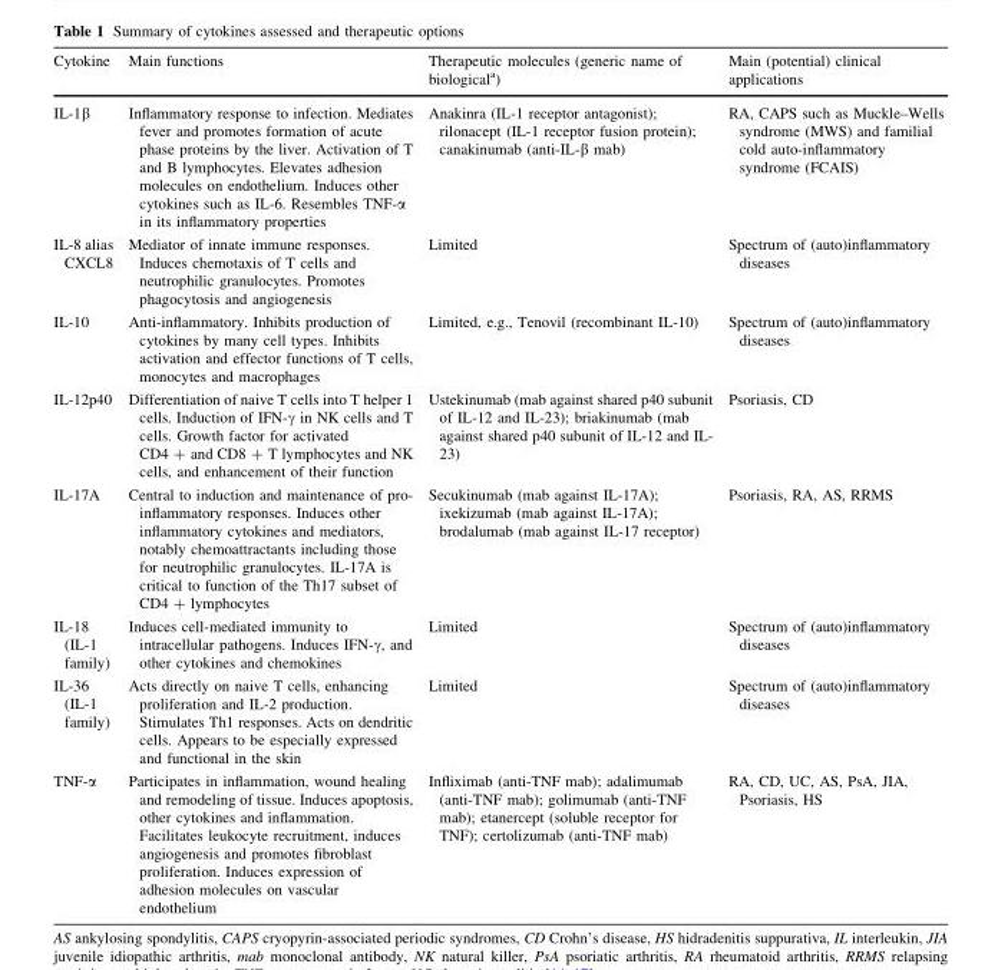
<table><thead><tr><td>Cytokine</td><td>Main functions</td><td>Therapeutic molecules (generic name of biological<sup>a</sup>)</td><td>Main (potential) clinical applications</td></tr></thead><tbody><tr><td>IL-1β</td><td>Inflammatory response to infection. Mediates fever and promotes formation of acute phase proteins by the liver. Activation of T and B lymphocytes. Elevates adhesion molecules on endothelium. Induces other cytokines such as IL-6. Resembles TNF-α in its inflammatory properties</td><td>Anakinra (IL-1 receptor antagonist); rilonacept (IL-1 receptor fusion protein); canakinumab (anti-IL-β mab)</td><td>RA, CAPS such as Muckle–Wells syndrome (MWS) and familial cold auto-inflammatory syndrome (FCAIS)</td></tr><tr><td>IL-8 alias CXCL8</td><td>Mediator of innate immune responses. Induces chemotaxis of T cells and neutrophilic granulocytes. Promotes phagocytosis and angiogenesis</td><td>Limited</td><td>Spectrum of (auto)inflammatory diseases</td></tr><tr><td>IL-10</td><td>Anti-inflammatory. Inhibits production of cytokines by many cell types. Inhibits activation and effector functions of T cells, monocytes and macrophages</td><td>Limited, e.g., Tenovil (recombinant IL-10)</td><td>Spectrum of (auto)inflammatory diseases</td></tr><tr><td>IL-12p40</td><td>Differentiation of naive T cells into T helper 1 cells. Induction of IFN-γ in NK cells and T cells. Growth factor for activated CD4 + and CD8 + T lymphocytes and NK cells, and enhancement of their function</td><td>Ustekinumab (mab against shared p40 subunit of IL-12 and IL-23); briakinumab (mab against shared p40 subunit of IL-12 and IL- 23)</td><td>Psoriasis, CD</td></tr><tr><td>IL-17A</td><td>Central to induction and maintenance of pro- inflammatory responses. Induces other inflammatory cytokines and mediators, notably chemoattractants including those for neutrophilic granulocytes. IL-17A is critical to function of the Th17 subset of CD4 + lymphocytes</td><td>Secukinumab (mab against IL-17A); ixekizumab (mab against IL-17A); brodalumab (mab against IL-17 receptor)</td><td>Psoriasis, RA, AS, RRMS</td></tr><tr><td>IL-18 (IL-1 family)</td><td>Induces cell-mediated immunity to intracellular pathogens. Induces IFN-γ, and other cytokines and chemokines</td><td>Limited</td><td>Spectrum of (auto)inflammatory diseases</td></tr><tr><td>IL-36 (IL-1 family)</td><td>Acts directly on naive T cells, enhancing proliferation and IL-2 production. Stimulates Th1 responses. Acts on dendritic cells. Appears to be especially expressed and functional in the skin</td><td>Limited</td><td>Spectrum of (auto)inflammatory diseases</td></tr><tr><td>TNF-α</td><td>Participates in inflammation, wound healing and remodeling of tissue. Induces apoptosis, other cytokines and inflammation. Facilitates leukocyte recruitment, induces angiogenesis and promotes fibroblast proliferation. Induces expression of adhesion molecules on vascular endothelium</td><td>Infliximab (anti-TNF mab); adalimumab (anti-TNF mab); golimumab (anti-TNF mab); etanercept (soluble receptor for TNF); certolizumab (anti-TNF mab)</td><td>RA, CD, UC, AS, PsA, JIA, Psoriasis, HS</td></tr></tbody></table>